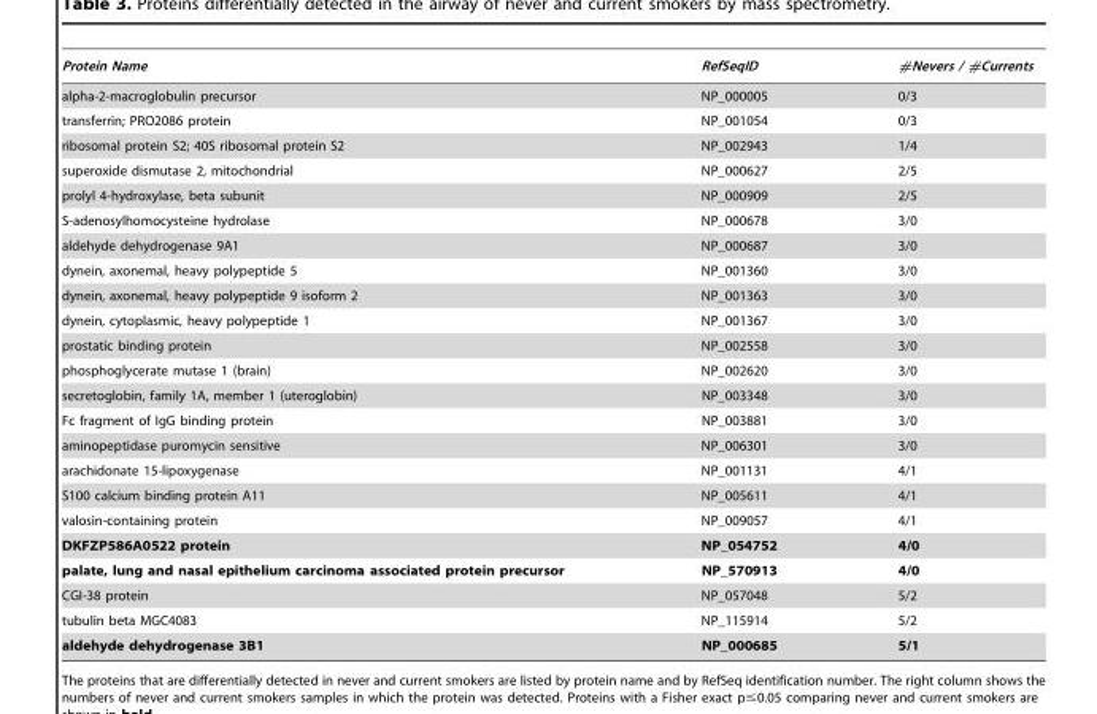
<table><thead><tr><td>Protein Name</td><td>RefSeqID</td><td>#Nevers / #Currents</td></tr></thead><tbody><tr><td>alpha-2-macroglobulin precursor</td><td>NP_000005</td><td>0/3</td></tr><tr><td>transferrin; PRO2086 protein</td><td>NP_001054</td><td>0/3</td></tr><tr><td>ribosomal protein S2; 40S ribosomal protein S2</td><td>NP_002943</td><td>1/4</td></tr><tr><td>superoxide dismutase 2, mitochondrial</td><td>NP_000627</td><td>2/5</td></tr><tr><td>prolyl 4-hydroxylase, beta subunit</td><td>NP_000909</td><td>2/5</td></tr><tr><td>S-adenosylhomocysteine hydrolase</td><td>NP_000678</td><td>3/0</td></tr><tr><td>aldehyde dehydrogenase 9A1</td><td>NP_000687</td><td>3/0</td></tr><tr><td>dynein, axonemal, heavy polypeptide 5</td><td>NP_001360</td><td>3/0</td></tr><tr><td>dynein, axonemal, heavy polypeptide 9 isoform 2</td><td>NP_001363</td><td>3/0</td></tr><tr><td>dynein, cytoplasmic, heavy polypeptide 1</td><td>NP_001367</td><td>3/0</td></tr><tr><td>prostatic binding protein</td><td>NP_002558</td><td>3/0</td></tr><tr><td>phosphoglycerate mutase 1 (brain)</td><td>NP_002620</td><td>3/0</td></tr><tr><td>secretoglobin, family 1A, member 1 (uteroglobin)</td><td>NP_003348</td><td>3/0</td></tr><tr><td>Fc fragment of IgG binding protein</td><td>NP_003881</td><td>3/0</td></tr><tr><td>aminopeptidase puromycin sensitive</td><td>NP_006301</td><td>3/0</td></tr><tr><td>arachidonate 15-lipoxygenase</td><td>NP_001131</td><td>4/1</td></tr><tr><td>S100 calcium binding protein A11</td><td>NP_005611</td><td>4/1</td></tr><tr><td>valosin-containing protein</td><td>NP_009057</td><td>4/1</td></tr><tr><td>DKFZP586A0522 protein</td><td>NP_054752</td><td>4/0</td></tr><tr><td>palate, lung and nasal epithelium carcinoma associated protein precursor</td><td>NP_570913</td><td>4/0</td></tr><tr><td>CGI-38 protein</td><td>NP_057048</td><td>5/2</td></tr><tr><td>tubulin beta MGC4083</td><td>NP_115914</td><td>5/2</td></tr><tr><td>aldehyde dehydrogenase 3B1</td><td>NP_000685</td><td>5/1</td></tr></tbody></table>